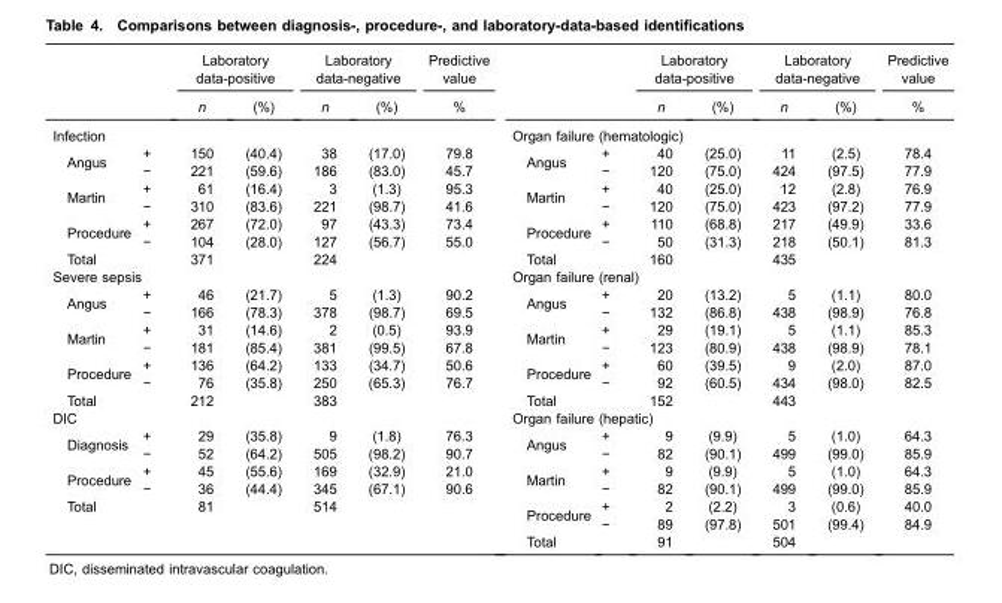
<table><thead><tr><td rowspan="2"></td><td rowspan="2"></td><td colspan="2">Laboratory data-positive</td><td colspan="2">Laboratory data-negative</td><td rowspan="2">Predictive value %</td><td rowspan="2"></td><td rowspan="2"></td><td colspan="2">Laboratory data-positive</td><td colspan="2">Laboratory data-negative</td><td rowspan="2">Predictive value %</td></tr><tr><td>n</td><td>(%)</td><td>n</td><td>(%)</td><td>n</td><td>(%)</td><td>n</td><td>(%)</td></tr></thead><tbody><tr><td colspan="7">Infection</td><td colspan="7">Organ failure (hematologic)</td></tr><tr><td rowspan="2">Angus</td><td>+</td><td>150</td><td>(40.4)</td><td>38</td><td>(17.0)</td><td>79.8</td><td rowspan="2">Angus</td><td>+</td><td>40</td><td>(25.0)</td><td>11</td><td>(2.5)</td><td>78.4</td></tr><tr><td>−</td><td>221</td><td>(59.6)</td><td>186</td><td>(83.0)</td><td>45.7</td><td>−</td><td>120</td><td>(75.0)</td><td>424</td><td>(97.5)</td><td>77.9</td></tr><tr><td rowspan="2">Martin</td><td>+</td><td>61</td><td>(16.4)</td><td>3</td><td>(1.3)</td><td>95.3</td><td rowspan="2">Martin</td><td>+</td><td>40</td><td>(25.0)</td><td>12</td><td>(2.8)</td><td>76.9</td></tr><tr><td>−</td><td>310</td><td>(83.6)</td><td>221</td><td>(98.7)</td><td>41.6</td><td>−</td><td>120</td><td>(75.0)</td><td>423</td><td>(97.2)</td><td>77.9</td></tr><tr><td rowspan="2">Procedure</td><td>+</td><td>267</td><td>(72.0)</td><td>97</td><td>(43.3)</td><td>73.4</td><td rowspan="2">Procedure</td><td>+</td><td>110</td><td>(68.8)</td><td>217</td><td>(49.9)</td><td>33.6</td></tr><tr><td>−</td><td>104</td><td>(28.0)</td><td>127</td><td>(56.7)</td><td>55.0</td><td>−</td><td>50</td><td>(31.3)</td><td>218</td><td>(50.1)</td><td>81.3</td></tr><tr><td>Total</td><td></td><td>371</td><td></td><td>224</td><td></td><td></td><td>Total</td><td></td><td>160</td><td></td><td>435</td><td></td><td></td></tr><tr><td colspan="7">Severe sepsis</td><td colspan="7">Organ failure (renal)</td></tr><tr><td rowspan="2">Angus</td><td>+</td><td>46</td><td>(21.7)</td><td>5</td><td>(1.3)</td><td>90.2</td><td rowspan="2">Angus</td><td>+</td><td>20</td><td>(13.2)</td><td>5</td><td>(1.1)</td><td>80.0</td></tr><tr><td>−</td><td>166</td><td>(78.3)</td><td>378</td><td>(98.7)</td><td>69.5</td><td>−</td><td>132</td><td>(86.8)</td><td>438</td><td>(98.9)</td><td>76.8</td></tr><tr><td rowspan="2">Martin</td><td>+</td><td>31</td><td>(14.6)</td><td>2</td><td>(0.5)</td><td>93.9</td><td rowspan="2">Martin</td><td>+</td><td>29</td><td>(19.1)</td><td>5</td><td>(1.1)</td><td>85.3</td></tr><tr><td>−</td><td>181</td><td>(85.4)</td><td>381</td><td>(99.5)</td><td>67.8</td><td>−</td><td>123</td><td>(80.9)</td><td>438</td><td>(98.9)</td><td>78.1</td></tr><tr><td rowspan="2">Procedure</td><td>+</td><td>136</td><td>(64.2)</td><td>133</td><td>(34.7)</td><td>50.6</td><td rowspan="2">Procedure</td><td>+</td><td>60</td><td>(39.5)</td><td>9</td><td>(2.0)</td><td>87.0</td></tr><tr><td>−</td><td>76</td><td>(35.8)</td><td>250</td><td>(65.3)</td><td>76.7</td><td>−</td><td>92</td><td>(60.5)</td><td>434</td><td>(98.0)</td><td>82.5</td></tr><tr><td>Total</td><td></td><td>212</td><td></td><td>383</td><td></td><td></td><td>Total</td><td></td><td>152</td><td></td><td>443</td><td></td><td></td></tr><tr><td colspan="7">DIC</td><td colspan="7">Organ failure (hepatic)</td></tr><tr><td rowspan="2">Diagnosis</td><td>+</td><td>29</td><td>(35.8)</td><td>9</td><td>(1.8)</td><td>76.3</td><td rowspan="2">Angus</td><td>+</td><td>9</td><td>(9.9)</td><td>5</td><td>(1.0)</td><td>64.3</td></tr><tr><td>−</td><td>52</td><td>(64.2)</td><td>505</td><td>(98.2)</td><td>90.7</td><td>−</td><td>82</td><td>(90.1)</td><td>499</td><td>(99.0)</td><td>85.9</td></tr><tr><td rowspan="2">Procedure</td><td>+</td><td>45</td><td>(55.6)</td><td>169</td><td>(32.9)</td><td>21.0</td><td rowspan="2">Martin</td><td>+</td><td>9</td><td>(9.9)</td><td>5</td><td>(1.0)</td><td>64.3</td></tr><tr><td>−</td><td>36</td><td>(44.4)</td><td>345</td><td>(67.1)</td><td>90.6</td><td>−</td><td>82</td><td>(90.1)</td><td>499</td><td>(99.0)</td><td>85.9</td></tr><tr><td>Total</td><td></td><td>81</td><td></td><td>514</td><td></td><td></td><td rowspan="2">Procedure</td><td>+</td><td>2</td><td>(2.2)</td><td>3</td><td>(0.6)</td><td>40.0</td></tr><tr><td rowspan="2" colspan="7"></td><td>−</td><td>89</td><td>(97.8)</td><td>501</td><td>(99.4)</td><td>84.9</td></tr><tr><td>Total</td><td></td><td>91</td><td></td><td>504</td><td></td><td></td></tr></tbody></table>